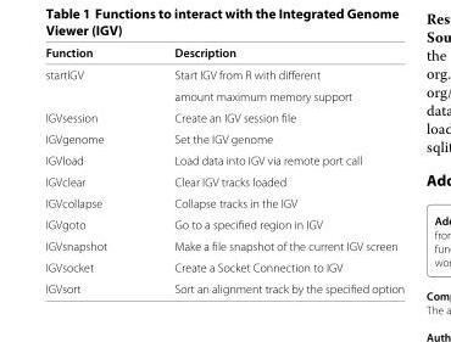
<table><thead><tr><td>Function</td><td>Description</td></tr></thead><tbody><tr><td rowspan="2">startIGV</td><td>Start IGV from R with different</td></tr><tr><td>amount maximum memory support</td></tr><tr><td>IGVsession</td><td>Create an IGV session file</td></tr><tr><td>IGVgenome</td><td>Set the IGV genome</td></tr><tr><td>IGVload</td><td>Load data into IGV via remote port call</td></tr><tr><td>IGVclear</td><td>Clear IGV tracks loaded</td></tr><tr><td>IGVcollapse</td><td>Collapse tracks in the IGV</td></tr><tr><td>IGVgoto</td><td>Go to a specified region in IGV</td></tr><tr><td>IGVsnapshot</td><td>Make a file snapshot of the current IGV screen</td></tr><tr><td>IGVsocket</td><td>Create a Socket Connection to IGV</td></tr><tr><td>IGVsort</td><td>Sort an alignment track by the specified option</td></tr></tbody></table>